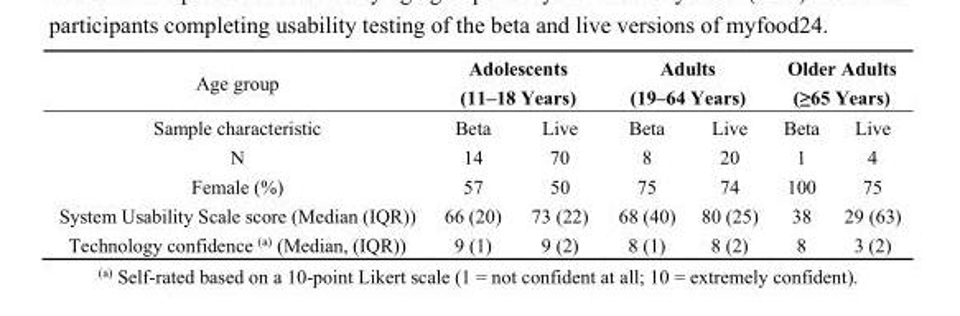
<table><thead><tr><td rowspan="2">Age group Sample characteristic</td><td colspan="2">Adolescents (11–18 Years)</td><td colspan="2">Adults (19–64 Years)</td><td colspan="2">Older Adults (≥65 Years)</td></tr><tr><td>Beta</td><td>Live</td><td>Beta</td><td>Live</td><td>Beta</td><td>Live</td></tr></thead><tbody><tr><td>N</td><td>14</td><td>70</td><td>8</td><td>20</td><td>1</td><td>4</td></tr><tr><td>Female (%)</td><td>57</td><td>50</td><td>75</td><td>74</td><td>100</td><td>75</td></tr><tr><td>System Usability Scale score (Median (IQR))</td><td>66 (20)</td><td>73 (22)</td><td>68 (40)</td><td>80 (25)</td><td>38</td><td>29 (63)</td></tr><tr><td>Technology confidence <sup>(a)</sup> (Median, (IQR))</td><td>9 (1)</td><td>9 (2)</td><td>8 (1)</td><td>8 (2)</td><td>8</td><td>3 (2)</td></tr></tbody></table>